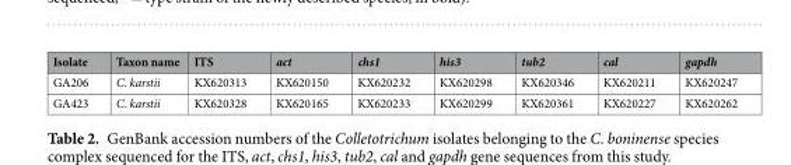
<table><thead><tr><td>Isolate</td><td>Taxon name</td><td>ITS</td><td>act</td><td>chs1</td><td>his3</td><td>tub2</td><td>cal</td><td>gapdh</td></tr></thead><tbody><tr><td>GA206</td><td>C. karstii</td><td>KX620313</td><td>KX620150</td><td>KX620232</td><td>KX620298</td><td>KX620346</td><td>KX620211</td><td>KX620247</td></tr><tr><td>GA423</td><td>C. karstii</td><td>KX620328</td><td>KX620165</td><td>KX620233</td><td>KX620299</td><td>KX620361</td><td>KX620227</td><td>KX620262</td></tr></tbody></table>